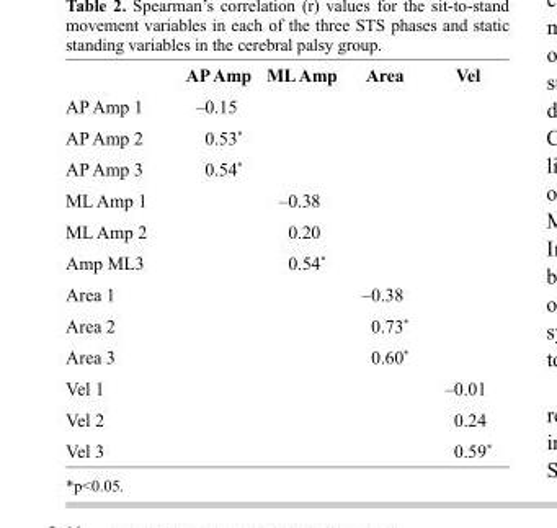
<table><thead><tr><td></td><td>AP Amp</td><td>ML Amp</td><td>Area</td><td>Vel</td></tr></thead><tbody><tr><td>AP Amp 1</td><td>–0.15</td><td></td><td></td><td></td></tr><tr><td>AP Amp 2</td><td>0.53*</td><td></td><td></td><td></td></tr><tr><td>AP Amp 3</td><td>0.54*</td><td></td><td></td><td></td></tr><tr><td>ML Amp 1</td><td></td><td>–0.38</td><td></td><td></td></tr><tr><td>ML Amp 2</td><td></td><td>0.20</td><td></td><td></td></tr><tr><td>Amp ML3</td><td></td><td>0.54*</td><td></td><td></td></tr><tr><td>Area 1</td><td></td><td></td><td>–0.38</td><td></td></tr><tr><td>Area 2</td><td></td><td></td><td>0.73*</td><td></td></tr><tr><td>Area 3</td><td></td><td></td><td>0.60*</td><td></td></tr><tr><td>Vel 1</td><td></td><td></td><td></td><td>–0.01</td></tr><tr><td>Vel 2</td><td></td><td></td><td></td><td>0.24</td></tr><tr><td>Vel 3</td><td></td><td></td><td></td><td>0.59*</td></tr></tbody></table>